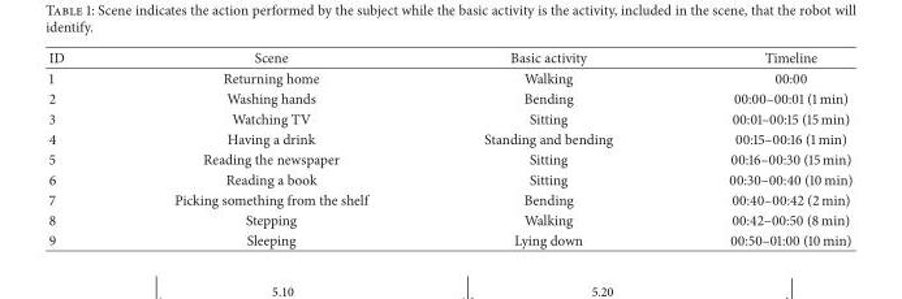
<table><thead><tr><td>ID</td><td>Scene</td><td>Basic activity</td><td>Timeline</td></tr></thead><tbody><tr><td>1</td><td>Returning home</td><td>Walking</td><td>00:00</td></tr><tr><td>2</td><td>Washing hands</td><td>Bending</td><td>00:00–00:01 (1 min)</td></tr><tr><td>3</td><td>Watching TV</td><td>Sitting</td><td>00:01–00:15 (15 min)</td></tr><tr><td>4</td><td>Having a drink</td><td>Standing and bending</td><td>00:15–00:16 (1 min)</td></tr><tr><td>5</td><td>Reading the newspaper</td><td>Sitting</td><td>00:16–00:30 (15 min)</td></tr><tr><td>6</td><td>Reading a book</td><td>Sitting</td><td>00:30–00:40 (10 min)</td></tr><tr><td>7</td><td>Picking something from the shelf</td><td>Bending</td><td>00:40–00:42 (2 min)</td></tr><tr><td>8</td><td>Stepping</td><td>Walking</td><td>00:42–00:50 (8 min)</td></tr><tr><td>9</td><td>Sleeping</td><td>Lying down</td><td>00:50–01:00 (10 min)</td></tr></tbody></table>